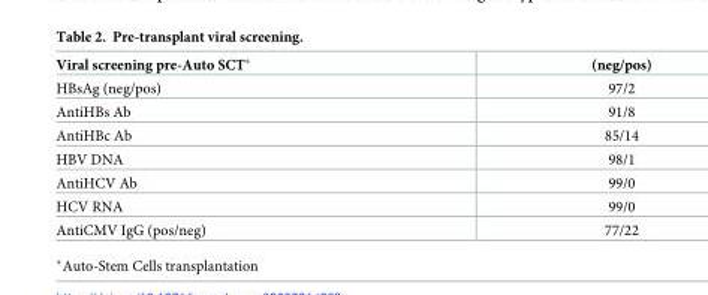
<table><thead><tr><td>Viral screening pre-Auto SCT*</td><td>(neg/pos)</td></tr></thead><tbody><tr><td>HBsAg (neg/pos)</td><td>97/2</td></tr><tr><td>AntiHBs Ab</td><td>91/8</td></tr><tr><td>AntiHBc Ab</td><td>85/14</td></tr><tr><td>HBV DNA</td><td>98/1</td></tr><tr><td>AntiHCV Ab</td><td>99/0</td></tr><tr><td>HCV RNA</td><td>99/0</td></tr><tr><td>AntiCMV IgG (pos/neg)</td><td>77/22</td></tr></tbody></table>